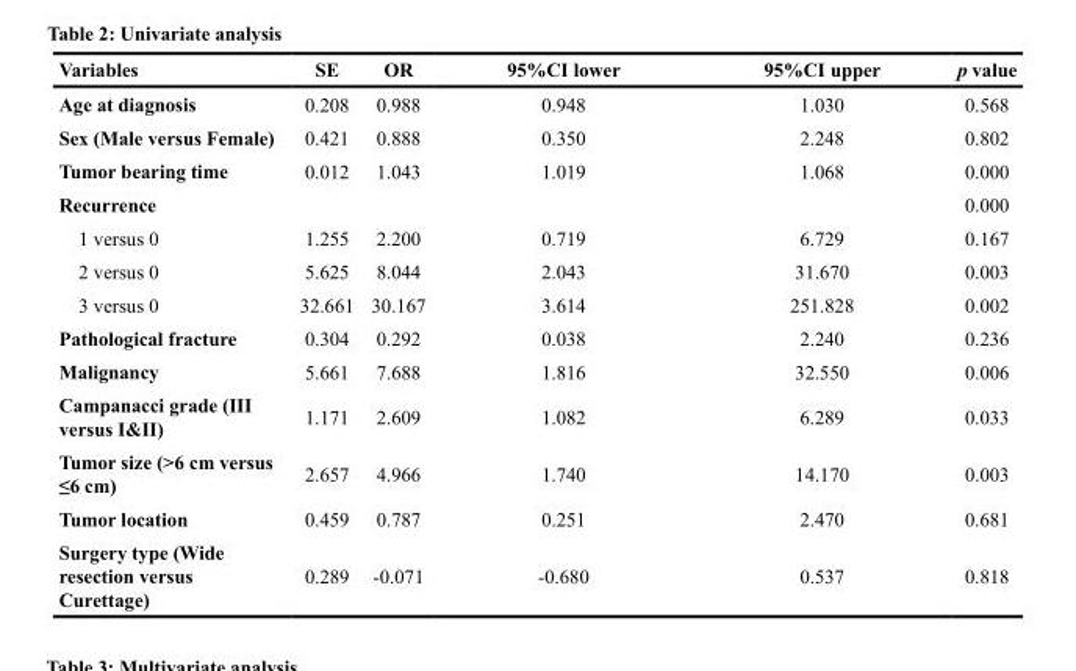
<table><thead><tr><td>Variables</td><td>SE</td><td>OR</td><td>95%CI lower</td><td>95%CI upper</td><td>p value</td></tr></thead><tbody><tr><td>Age at diagnosis</td><td>0.208</td><td>0.988</td><td>0.948</td><td>1.030</td><td>0.568</td></tr><tr><td>Sex (Male versus Female)</td><td>0.421</td><td>0.888</td><td>0.350</td><td>2.248</td><td>0.802</td></tr><tr><td>Tumor bearing time</td><td>0.012</td><td>1.043</td><td>1.019</td><td>1.068</td><td>0.000</td></tr><tr><td>Recurrence</td><td></td><td></td><td></td><td></td><td>0.000</td></tr><tr><td>1 versus 0</td><td>1.255</td><td>2.200</td><td>0.719</td><td>6.729</td><td>0.167</td></tr><tr><td>2 versus 0</td><td>5.625</td><td>8.044</td><td>2.043</td><td>31.670</td><td>0.003</td></tr><tr><td>3 versus 0</td><td>32.661</td><td>30.167</td><td>3.614</td><td>251.828</td><td>0.002</td></tr><tr><td>Pathological fracture</td><td>0.304</td><td>0.292</td><td>0.038</td><td>2.240</td><td>0.236</td></tr><tr><td>Malignancy</td><td>5.661</td><td>7.688</td><td>1.816</td><td>32.550</td><td>0.006</td></tr><tr><td>Campanacci grade (III versus I&amp;II)</td><td>1.171</td><td>2.609</td><td>1.082</td><td>6.289</td><td>0.033</td></tr><tr><td>Tumor size (&gt;6 cm versus ≤6 cm)</td><td>2.657</td><td>4.966</td><td>1.740</td><td>14.170</td><td>0.003</td></tr><tr><td>Tumor location</td><td>0.459</td><td>0.787</td><td>0.251</td><td>2.470</td><td>0.681</td></tr><tr><td>Surgery type (Wide resection versus Curettage)</td><td>0.289</td><td>-0.071</td><td>-0.680</td><td>0.537</td><td>0.818</td></tr></tbody></table>